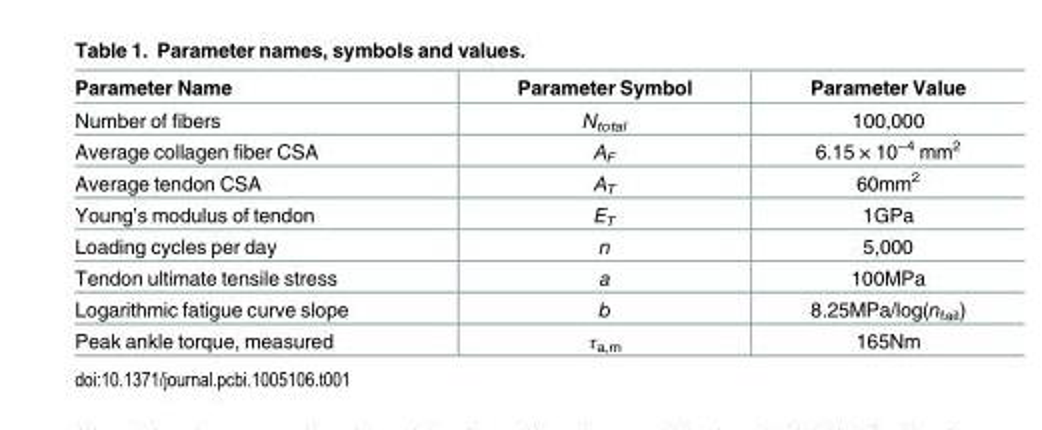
<table><thead><tr><td>Parameter Name</td><td>Parameter Symbol</td><td>Parameter Value</td></tr></thead><tbody><tr><td>Number of fibers</td><td>N<sub>total</sub></td><td>100,000</td></tr><tr><td>Average collagen fiber CSA</td><td>A<sub>F</sub></td><td>6.15 × 10<sup>−4</sup> mm<sup>2</sup></td></tr><tr><td>Average tendon CSA</td><td>A<sub>T</sub></td><td>60mm<sup>2</sup></td></tr><tr><td>Young’s modulus of tendon</td><td>E<sub>T</sub></td><td>1GPa</td></tr><tr><td>Loading cycles per day</td><td>n</td><td>5,000</td></tr><tr><td>Tendon ultimate tensile stress</td><td>a</td><td>100MPa</td></tr><tr><td>Logarithmic fatigue curve slope</td><td>b</td><td>8.25MPa/log(n<sub>fail</sub>)</td></tr><tr><td>Peak ankle torque, measured</td><td>τ<sub>a,m</sub></td><td>165Nm</td></tr></tbody></table>